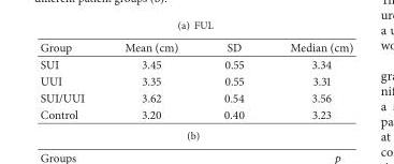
<table><thead><tr><td>Group</td><td>Mean (cm)</td><td>SD</td><td>Median (cm)</td></tr></thead><tbody><tr><td>SUI</td><td>3.45</td><td>0.55</td><td>3.34</td></tr><tr><td>UUI</td><td>3.35</td><td>0.55</td><td>3.31</td></tr><tr><td>SUI/UUI</td><td>3.62</td><td>0.54</td><td>3.56</td></tr><tr><td>Control</td><td>3.20</td><td>0.40</td><td>3.23</td></tr></tbody></table>